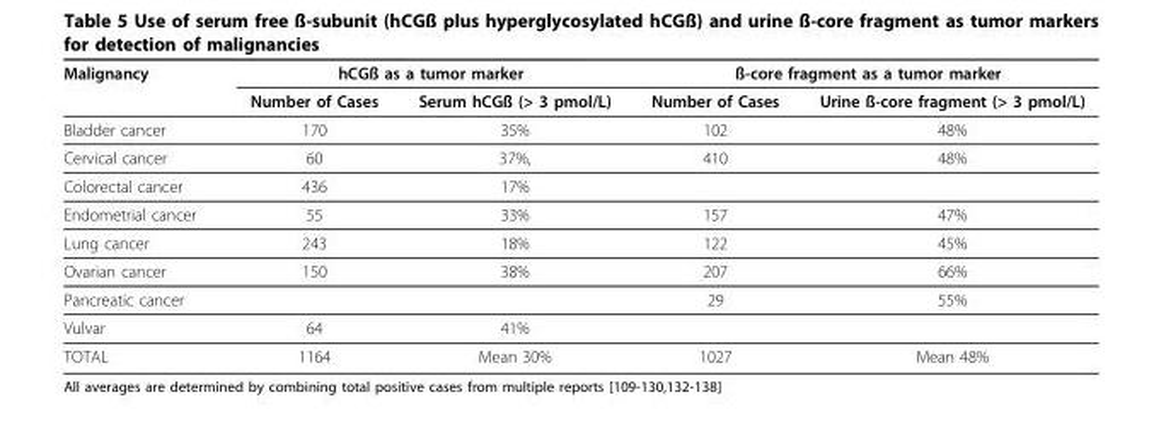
<table><thead><tr><td rowspan="2">Malignancy</td><td colspan="2">hCGß as a tumor marker</td><td colspan="2">ß-core fragment as a tumor marker</td></tr><tr><td>Number of Cases</td><td>Serum hCGß (&gt; 3 pmol/L)</td><td>Number of Cases</td><td>Urine ß-core fragment (&gt; 3 pmol/L)</td></tr></thead><tbody><tr><td>Bladder cancer</td><td>170</td><td>35%</td><td>102</td><td>48%</td></tr><tr><td>Cervical cancer</td><td>60</td><td>37%,</td><td>410</td><td>48%</td></tr><tr><td>Colorectal cancer</td><td>436</td><td>17%</td><td></td><td></td></tr><tr><td>Endometrial cancer</td><td>55</td><td>33%</td><td>157</td><td>47%</td></tr><tr><td>Lung cancer</td><td>243</td><td>18%</td><td>122</td><td>45%</td></tr><tr><td>Ovarian cancer</td><td>150</td><td>38%</td><td>207</td><td>66%</td></tr><tr><td>Pancreatic cancer</td><td></td><td></td><td>29</td><td>55%</td></tr><tr><td>Vulvar</td><td>64</td><td>41%</td><td></td><td></td></tr><tr><td>TOTAL</td><td>1164</td><td>Mean 30%</td><td>1027</td><td>Mean 48%</td></tr></tbody></table>